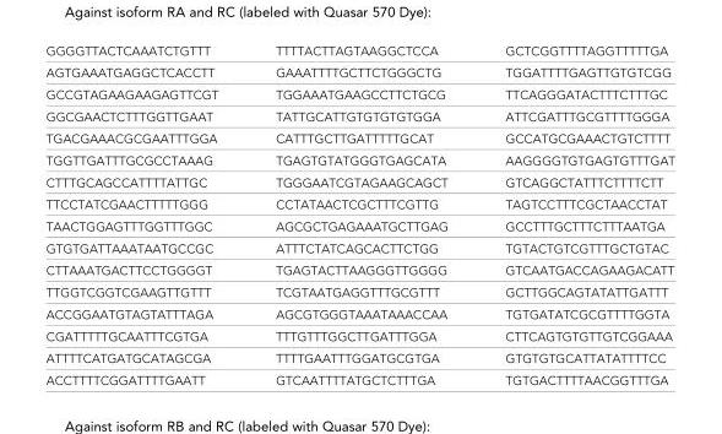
<table><tbody><tr><td>GGGGTTACTCAAATCTGTTT</td><td>TTTTACTTAGTAAGGCTCCA</td><td>GCTCGGTTTTAGGTTTTTGA</td></tr><tr><td>AGTGAAATGAGGCTCACCTT</td><td>GAAATTTTGCTTCTGGGCTG</td><td>TGGATTTTGAGTTGTGTCGG</td></tr><tr><td>GCCGTAGAAGAAGAGTTCGT</td><td>TGGAAATGAAGCCTTCTGCG</td><td>TTCAGGGATACTTTCTTTGC</td></tr><tr><td>GGCGAACTCTTTGGTTGAAT</td><td>TATTGCATTGTGTGTGTGGA</td><td>ATTCGATTTGCGTTTTGGGA</td></tr><tr><td>TGACGAAACGCGAATTTGGA</td><td>CATTTGCTTGATTTTTGCAT</td><td>GCCATGCGAAACTGTCTTTT</td></tr><tr><td>TGGTTGATTTGCGCCTAAAG</td><td>TGAGTGTATGGGTGAGCATA</td><td>AAGGGGTGTGAGTGTTTGAT</td></tr><tr><td>CTTTGCAGCCATTTTATTGC</td><td>TGGGAATCGTAGAAGCAGCT</td><td>GTCAGGCTATTTCTTTTCTT</td></tr><tr><td>TTCCTATCGAACTTTTTGGG</td><td>CCTATAACTCGCTTTCGTTG</td><td>TAGTCCTTTCGCTAACCTAT</td></tr><tr><td>TAACTGGAGTTTGGTTTGGC</td><td>AGCGCTGAGAAATGCTTGAG</td><td>GCCTTTGCTTTCTTTAATGA</td></tr><tr><td>GTGTGATTAAATAATGCCGC</td><td>ATTTCTATCAGCACTTCTGG</td><td>TGTACTGTCGTTTGCTGTAC</td></tr><tr><td>CTTAAATGACTTCCTGGGGT</td><td>TGAGTACTTAAGGGTTGGGG</td><td>GTCAATGACCAGAAGACATT</td></tr><tr><td>TTGGTCGGTCGAAGTTGTTT</td><td>TCGTAATGAGGTTTGCGTTT</td><td>GCTTGGCAGTATATTGATTT</td></tr><tr><td>ACCGGAATGTAGTATTTAGA</td><td>AGCGTGGGTAAATAAACCAA</td><td>TGTGATATCGCGTTTTGGTA</td></tr><tr><td>CGATTTTTGCAATTTCGTGA</td><td>TTTGTTTGGCTTGATTTGGA</td><td>CTTCAGTGTGTTGTCGGAAA</td></tr><tr><td>ATTTTCATGATGCATAGCGA</td><td>TTTTGAATTTGGATGCGTGA</td><td>GTGTGTGCATTATATTTTCC</td></tr><tr><td>ACCTTTTCGGATTTTGAATT</td><td>GTCAATTTTATGCTCTTTGA</td><td>TGTGACTTTTAACGGTTTGA</td></tr></tbody></table>